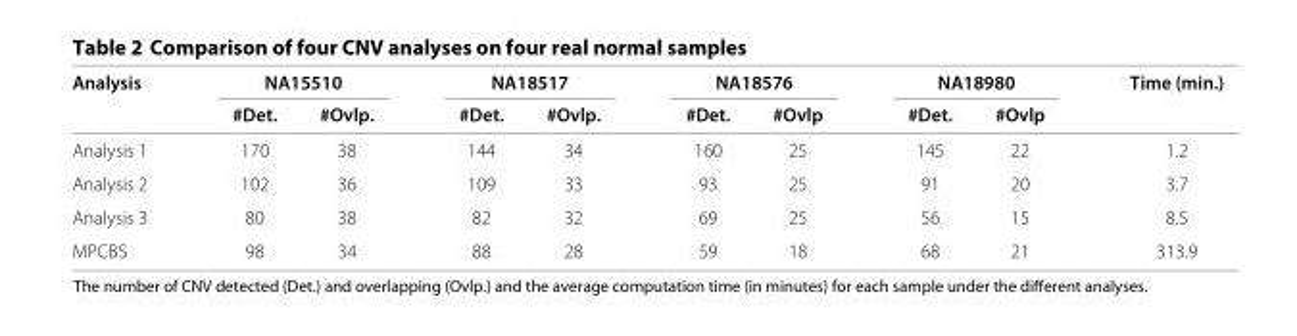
<table><thead><tr><td rowspan="2">Analysis</td><td colspan="2">NA15510</td><td colspan="2">NA18517</td><td colspan="2">NA18576</td><td colspan="2">NA18980</td><td rowspan="2">Time (min.)</td></tr><tr><td>#Det.</td><td>#Ovlp.</td><td>#Det.</td><td>#Ovlp.</td><td>#Det.</td><td>#Ovlp</td><td>#Det.</td><td>#Ovlp</td></tr></thead><tbody><tr><td>Analysis 1</td><td>170</td><td>38</td><td>144</td><td>34</td><td>160</td><td>25</td><td>145</td><td>22</td><td>1.2</td></tr><tr><td>Analysis 2</td><td>102</td><td>36</td><td>109</td><td>33</td><td>93</td><td>25</td><td>91</td><td>20</td><td>3.7</td></tr><tr><td>Analysis 3</td><td>80</td><td>38</td><td>82</td><td>32</td><td>69</td><td>25</td><td>56</td><td>15</td><td>8.5</td></tr><tr><td>MPCBS</td><td>98</td><td>34</td><td>88</td><td>28</td><td>59</td><td>18</td><td>68</td><td>21</td><td>313.9</td></tr></tbody></table>